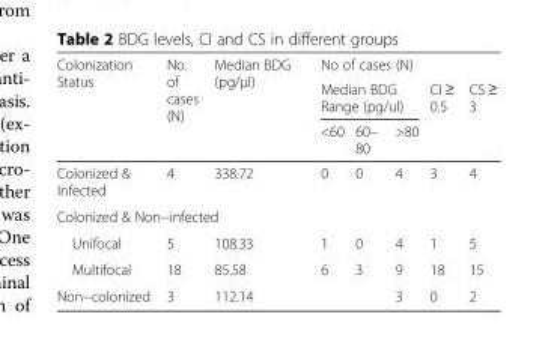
<table><thead><tr><td rowspan="3">Colonization Status</td><td rowspan="3">No. of cases (N)</td><td rowspan="3">Median BDG (pg/μl)</td><td colspan="5">No of cases (N)</td></tr><tr><td colspan="3">Median BDG Range (pg/ul)</td><td rowspan="2">CI ≥ 0.5</td><td rowspan="2">CS ≥ 3</td></tr><tr><td>&lt;60</td><td>60– 80</td><td>&gt;80</td></tr></thead><tbody><tr><td>Colonized &amp; Infected</td><td>4</td><td>338.72</td><td>0</td><td>0</td><td>4</td><td>3</td><td>4</td></tr><tr><td colspan="8">Colonized &amp; Non−infected</td></tr><tr><td>Unifocal</td><td>5</td><td>108.33</td><td>1</td><td>0</td><td>4</td><td>1</td><td>5</td></tr><tr><td>Multifocal</td><td>18</td><td>85.58</td><td>6</td><td>3</td><td>9</td><td>18</td><td>15</td></tr><tr><td>Non−colonized</td><td>3</td><td>112.14</td><td></td><td></td><td>3</td><td>0</td><td>2</td></tr></tbody></table>